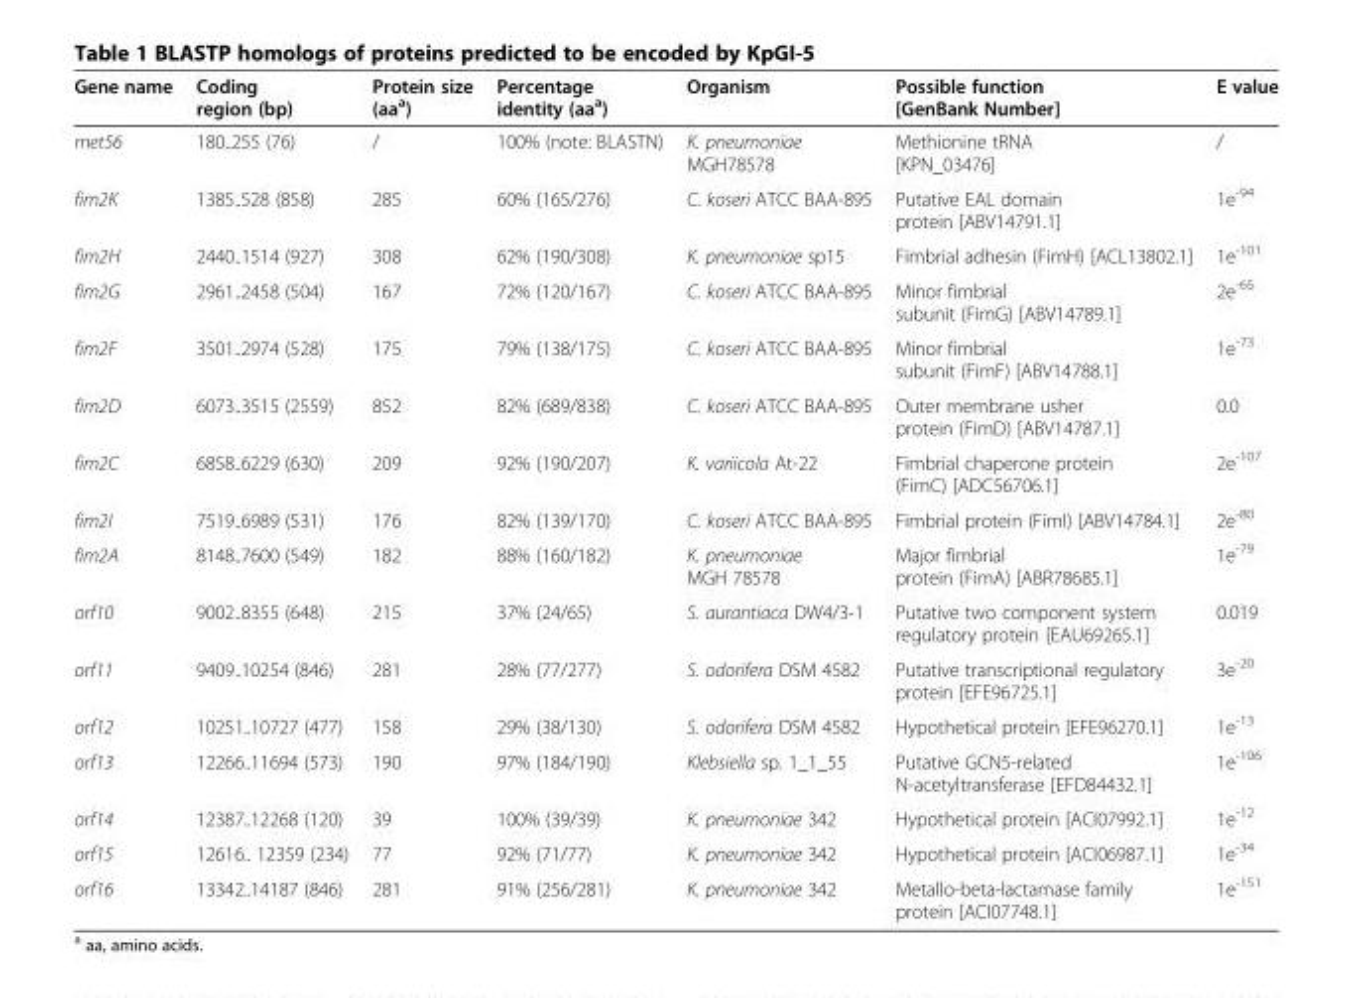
<table><thead><tr><td>Gene name</td><td>Coding region (bp)</td><td>Protein size (aa<sup>a</sup>)</td><td>Percentage identity (aa<sup>a</sup>)</td><td>Organism</td><td>Possible function [GenBank Number]</td><td>E value</td></tr></thead><tbody><tr><td>met56</td><td>180..255 (76)</td><td>/</td><td>100% (note: BLASTN)</td><td>K. pneumoniae MGH78578</td><td>Methionine tRNA [KPN_03476]</td><td>/</td></tr><tr><td>fim2K</td><td>1385..528 (858)</td><td>285</td><td>60% (165/276)</td><td>C. koseri ATCC BAA-895</td><td>Putative EAL domain protein [ABV14791.1]</td><td>1e<sup>-94</sup></td></tr><tr><td>fim2H</td><td>2440..1514 (927)</td><td>308</td><td>62% (190/308)</td><td>K. pneumoniae sp15</td><td>Fimbrial adhesin (FimH) [ACL13802.1]</td><td>1e<sup>-101</sup></td></tr><tr><td>fim2G</td><td>2961..2458 (504)</td><td>167</td><td>72% (120/167)</td><td>C. koseri ATCC BAA-895</td><td>Minor fimbrial subunit (FimG) [ABV14789.1]</td><td>2e<sup>-65</sup></td></tr><tr><td>fim2F</td><td>3501..2974 (528)</td><td>175</td><td>79% (138/175)</td><td>C. koseri ATCC BAA-895</td><td>Minor fimbrial subunit (FimF) [ABV14788.1]</td><td>1e<sup>-73</sup></td></tr><tr><td>fim2D</td><td>6073..3515 (2559)</td><td>852</td><td>82% (689/838)</td><td>C. koseri ATCC BAA-895</td><td>Outer membrane usher protein (FimD) [ABV14787.1]</td><td>0.0</td></tr><tr><td>fim2C</td><td>6858..6229 (630)</td><td>209</td><td>92% (190/207)</td><td>K. variicola At-22</td><td>Fimbrial chaperone protein (FimC) [ADC56706.1]</td><td>2e<sup>-107</sup></td></tr><tr><td>fim2I</td><td>7519..6989 (531)</td><td>176</td><td>82% (139/170)</td><td>C. koseri ATCC BAA-895</td><td>Fimbrial protein (FimI) [ABV14784.1]</td><td>2e<sup>-80</sup></td></tr><tr><td>fim2A</td><td>8148..7600 (549)</td><td>182</td><td>88% (160/182)</td><td>K. pneumoniae MGH 78578</td><td>Major fimbrial protein (FimA) [ABR78685.1]</td><td>1e<sup>-79</sup></td></tr><tr><td>orf10</td><td>9002..8355 (648)</td><td>215</td><td>37% (24/65)</td><td>S. aurantiaca DW4/3-1</td><td>Putative two component system regulatory protein [EAU69265.1]</td><td>0.019</td></tr><tr><td>orf11</td><td>9409..10254 (846)</td><td>281</td><td>28% (77/277)</td><td>S. odorifera DSM 4582</td><td>Putative transcriptional regulatory protein [EFE96725.1]</td><td>3e<sup>-20</sup></td></tr><tr><td>orf12</td><td>10251..10727 (477)</td><td>158</td><td>29% (38/130)</td><td>S. odorifera DSM 4582</td><td>Hypothetical protein [EFE96270.1]</td><td>1e<sup>-13</sup></td></tr><tr><td>orf13</td><td>12266..11694 (573)</td><td>190</td><td>97% (184/190)</td><td>Klebsiella sp. 1_1_55</td><td>Putative GCN5-related N-acetyltransferase [EFD84432.1]</td><td>1e<sup>-106</sup></td></tr><tr><td>orf14</td><td>12387..12268 (120)</td><td>39</td><td>100% (39/39)</td><td>K. pneumoniae 342</td><td>Hypothetical protein [ACI07992.1]</td><td>1e<sup>-12</sup></td></tr><tr><td>orf15</td><td>12616.. 12359 (234)</td><td>77</td><td>92% (71/77)</td><td>K. pneumoniae 342</td><td>Hypothetical protein [ACI06987.1]</td><td>1e<sup>-34</sup></td></tr><tr><td>orf16</td><td>13342..14187 (846)</td><td>281</td><td>91% (256/281)</td><td>K. pneumoniae 342</td><td>Metallo-beta-lactamase family protein [ACI07748.1]</td><td>1e<sup>-151</sup></td></tr></tbody></table>